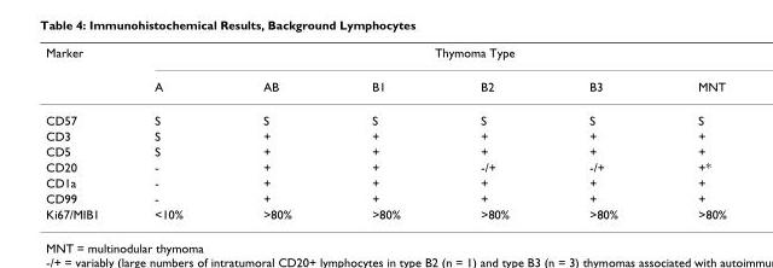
<table><thead><tr><td rowspan="2">Marker</td><td colspan="6">Thymoma Type</td></tr><tr><td>A</td><td>AB</td><td>B1</td><td>B2</td><td>B3</td><td>MNT</td></tr></thead><tbody><tr><td>CD57</td><td>S</td><td>S</td><td>S</td><td>S</td><td>S</td><td>S</td></tr><tr><td>CD3</td><td>S</td><td>+</td><td>+</td><td>+</td><td>+</td><td>+</td></tr><tr><td>CD5</td><td>S</td><td>+</td><td>+</td><td>+</td><td>+</td><td>+</td></tr><tr><td>CD20</td><td>-</td><td>+</td><td>+</td><td>-/+</td><td>-/+</td><td>+*</td></tr><tr><td>CD1a</td><td>-</td><td>+</td><td>+</td><td>+</td><td>+</td><td>+</td></tr><tr><td>CD99</td><td>-</td><td>+</td><td>+</td><td>+</td><td>+</td><td>+</td></tr><tr><td>Ki67/MIB1</td><td>&lt;10%</td><td>&gt;80%</td><td>&gt;80%</td><td>&gt;80%</td><td>&gt;80%</td><td>&gt;80%</td></tr></tbody></table>